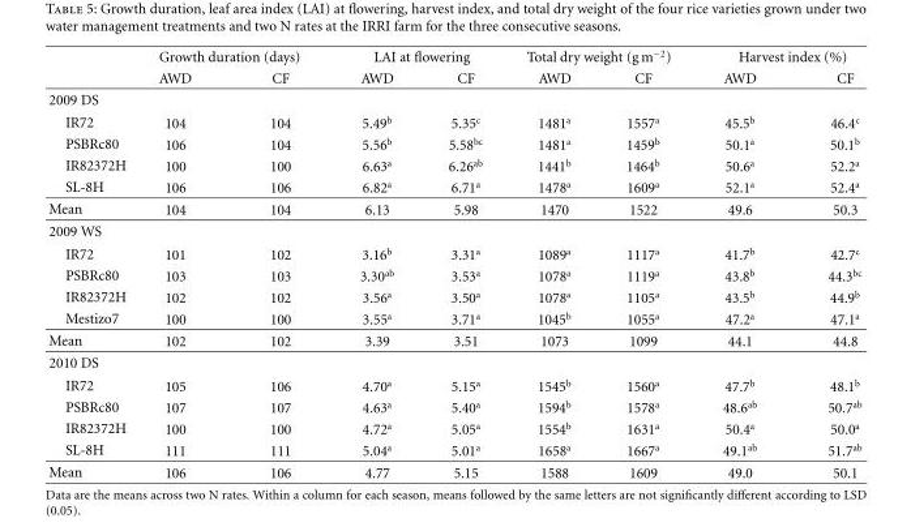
<table><thead><tr><td rowspan="2"></td><td colspan="2">Growth duration (days)</td><td colspan="2">LAI at flowering</td><td colspan="2">Total dry weight (g m<sup>−2</sup>)</td><td colspan="2">Harvest index (%)</td></tr><tr><td>AWD</td><td>CF</td><td>AWD</td><td>CF</td><td>AWD</td><td>CF</td><td>AWD</td><td>CF</td></tr></thead><tbody><tr><td colspan="9">2009 DS</td></tr><tr><td>IR72</td><td>104</td><td>104</td><td>5.49<sup>b</sup></td><td>5.35<sup>c</sup></td><td>1481<sup>a</sup></td><td>1557<sup>a</sup></td><td>45.5<sup>b</sup></td><td>46.4<sup>c</sup></td></tr><tr><td>PSBRc80</td><td>106</td><td>104</td><td>5.56<sup>b</sup></td><td>5.58<sup>bc</sup></td><td>1481<sup>a</sup></td><td>1459<sup>b</sup></td><td>50.1<sup>a</sup></td><td>50.1<sup>b</sup></td></tr><tr><td>IR82372H</td><td>100</td><td>100</td><td>6.63<sup>a</sup></td><td>6.26<sup>ab</sup></td><td>1441<sup>b</sup></td><td>1464<sup>b</sup></td><td>50.6<sup>a</sup></td><td>52.2<sup>a</sup></td></tr><tr><td>SL-8H</td><td>106</td><td>106</td><td>6.82<sup>a</sup></td><td>6.71<sup>a</sup></td><td>1478<sup>a</sup></td><td>1609<sup>a</sup></td><td>52.1<sup>a</sup></td><td>52.4<sup>a</sup></td></tr><tr><td>Mean</td><td>104</td><td>104</td><td>6.13</td><td>5.98</td><td>1470</td><td>1522</td><td>49.6</td><td>50.3</td></tr><tr><td colspan="9">2009 WS</td></tr><tr><td>IR72</td><td>101</td><td>102</td><td>3.16<sup>b</sup></td><td>3.31<sup>a</sup></td><td>1089<sup>a</sup></td><td>1117<sup>a</sup></td><td>41.7<sup>b</sup></td><td>42.7<sup>c</sup></td></tr><tr><td>PSBRc80</td><td>103</td><td>103</td><td>3.30<sup>ab</sup></td><td>3.53<sup>a</sup></td><td>1078<sup>a</sup></td><td>1119<sup>a</sup></td><td>43.8<sup>b</sup></td><td>44.3<sup>bc</sup></td></tr><tr><td>IR82372H</td><td>102</td><td>102</td><td>3.56<sup>a</sup></td><td>3.50<sup>a</sup></td><td>1078<sup>a</sup></td><td>1105<sup>a</sup></td><td>43.5<sup>b</sup></td><td>44.9<sup>b</sup></td></tr><tr><td>Mestizo7</td><td>100</td><td>100</td><td>3.55<sup>a</sup></td><td>3.71<sup>a</sup></td><td>1045<sup>b</sup></td><td>1055<sup>a</sup></td><td>47.2<sup>a</sup></td><td>47.1<sup>a</sup></td></tr><tr><td>Mean</td><td>102</td><td>102</td><td>3.39</td><td>3.51</td><td>1073</td><td>1099</td><td>44.1</td><td>44.8</td></tr><tr><td colspan="9">2010 DS</td></tr><tr><td>IR72</td><td>105</td><td>106</td><td>4.70<sup>a</sup></td><td>5.15<sup>a</sup></td><td>1545<sup>b</sup></td><td>1560<sup>a</sup></td><td>47.7<sup>b</sup></td><td>48.1<sup>b</sup></td></tr><tr><td>PSBRc80</td><td>107</td><td>107</td><td>4.63<sup>a</sup></td><td>5.40<sup>a</sup></td><td>1594<sup>b</sup></td><td>1578<sup>a</sup></td><td>48.6<sup>ab</sup></td><td>50.7<sup>ab</sup></td></tr><tr><td>IR82372H</td><td>100</td><td>100</td><td>4.72<sup>a</sup></td><td>5.05<sup>a</sup></td><td>1554<sup>b</sup></td><td>1631<sup>a</sup></td><td>50.4<sup>a</sup></td><td>50.0<sup>a</sup></td></tr><tr><td>SL-8H</td><td>111</td><td>111</td><td>5.04<sup>a</sup></td><td>5.01<sup>a</sup></td><td>1658<sup>a</sup></td><td>1667<sup>a</sup></td><td>49.1<sup>ab</sup></td><td>51.7<sup>ab</sup></td></tr><tr><td>Mean</td><td>106</td><td>106</td><td>4.77</td><td>5.15</td><td>1588</td><td>1609</td><td>49.0</td><td>50.1</td></tr></tbody></table>